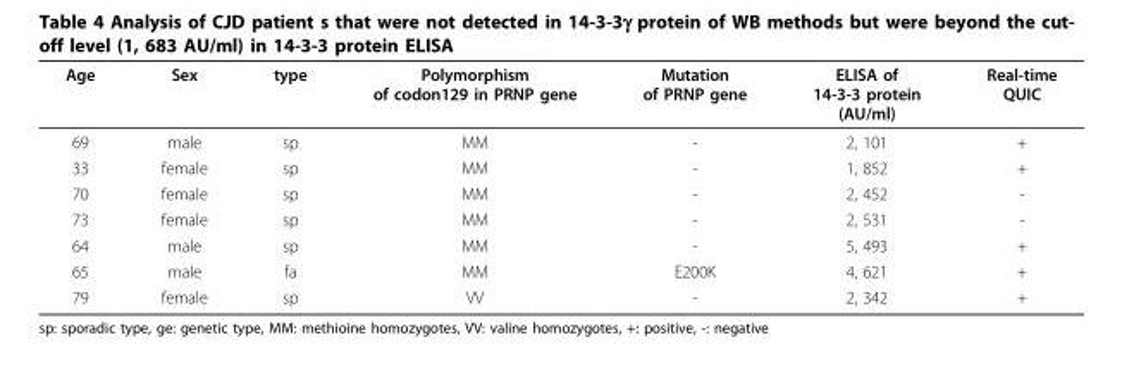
<table><thead><tr><td>Age</td><td>Sex</td><td>type</td><td>Polymorphism of codon129 in PRNP gene</td><td>Mutation of PRNP gene</td><td>ELISA of 14-3-3 protein (AU/ml)</td><td>Real-time QUIC</td></tr></thead><tbody><tr><td>69</td><td>male</td><td>sp</td><td>MM</td><td>-</td><td>2, 101</td><td>+</td></tr><tr><td>33</td><td>female</td><td>sp</td><td>MM</td><td>-</td><td>1, 852</td><td>+</td></tr><tr><td>70</td><td>female</td><td>sp</td><td>MM</td><td>-</td><td>2, 452</td><td>-</td></tr><tr><td>73</td><td>female</td><td>sp</td><td>MM</td><td>-</td><td>2, 531</td><td>-</td></tr><tr><td>64</td><td>male</td><td>sp</td><td>MM</td><td>-</td><td>5, 493</td><td>+</td></tr><tr><td>65</td><td>male</td><td>fa</td><td>MM</td><td>E200K</td><td>4, 621</td><td>+</td></tr><tr><td>79</td><td>female</td><td>sp</td><td>VV</td><td>-</td><td>2, 342</td><td>+</td></tr></tbody></table>